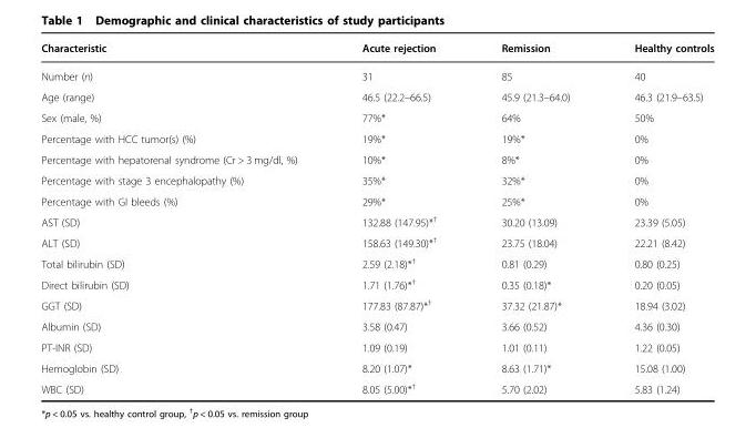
<table><thead><tr><td>Characteristic</td><td>Acute rejection</td><td>Remission</td><td>Healthy controls</td></tr></thead><tbody><tr><td>Number (n)</td><td>31</td><td>85</td><td>40</td></tr><tr><td>Age (range)</td><td>46.5 (22.2–66.5)</td><td>45.9 (21.3–64.0)</td><td>46.3 (21.9–63.5)</td></tr><tr><td>Sex (male, %)</td><td>77%*</td><td>64%</td><td>50%</td></tr><tr><td>Percentage with HCC tumor(s) (%)</td><td>19%*</td><td>19%*</td><td>0%</td></tr><tr><td>Percentage with hepatorenal syndrome (Cr &gt; 3 mg/dl, %)</td><td>10%*</td><td>8%*</td><td>0%</td></tr><tr><td>Percentage with stage 3 encephalopathy (%)</td><td>35%*</td><td>32%*</td><td>0%</td></tr><tr><td>Percentage with GI bleeds (%)</td><td>29%*</td><td>25%*</td><td>0%</td></tr><tr><td>AST (SD)</td><td>132.88 (147.95)*<sup>†</sup></td><td>30.20 (13.09)</td><td>23.39 (5.05)</td></tr><tr><td>ALT (SD)</td><td>158.63 (149.30)*<sup>†</sup></td><td>23.75 (18.04)</td><td>22.21 (8.42)</td></tr><tr><td>Total bilirubin (SD)</td><td>2.59 (2.18)*<sup>†</sup></td><td>0.81 (0.29)</td><td>0.80 (0.25)</td></tr><tr><td>Direct bilirubin (SD)</td><td>1.71 (1.76)*<sup>†</sup></td><td>0.35 (0.18)*</td><td>0.20 (0.05)</td></tr><tr><td>GGT (SD)</td><td>177.83 (87.87)*<sup>†</sup></td><td>37.32 (21.87)*</td><td>18.94 (3.02)</td></tr><tr><td>Albumin (SD)</td><td>3.58 (0.47)</td><td>3.66 (0.52)</td><td>4.36 (0.30)</td></tr><tr><td>PT-INR (SD)</td><td>1.09 (0.19)</td><td>1.01 (0.11)</td><td>1.22 (0.05)</td></tr><tr><td>Hemoglobin (SD)</td><td>8.20 (1.07)*</td><td>8.63 (1.71)*</td><td>15.08 (1.00)</td></tr><tr><td>WBC (SD)</td><td>8.05 (5.00)*<sup>†</sup></td><td>5.70 (2.02)</td><td>5.83 (1.24)</td></tr></tbody></table>